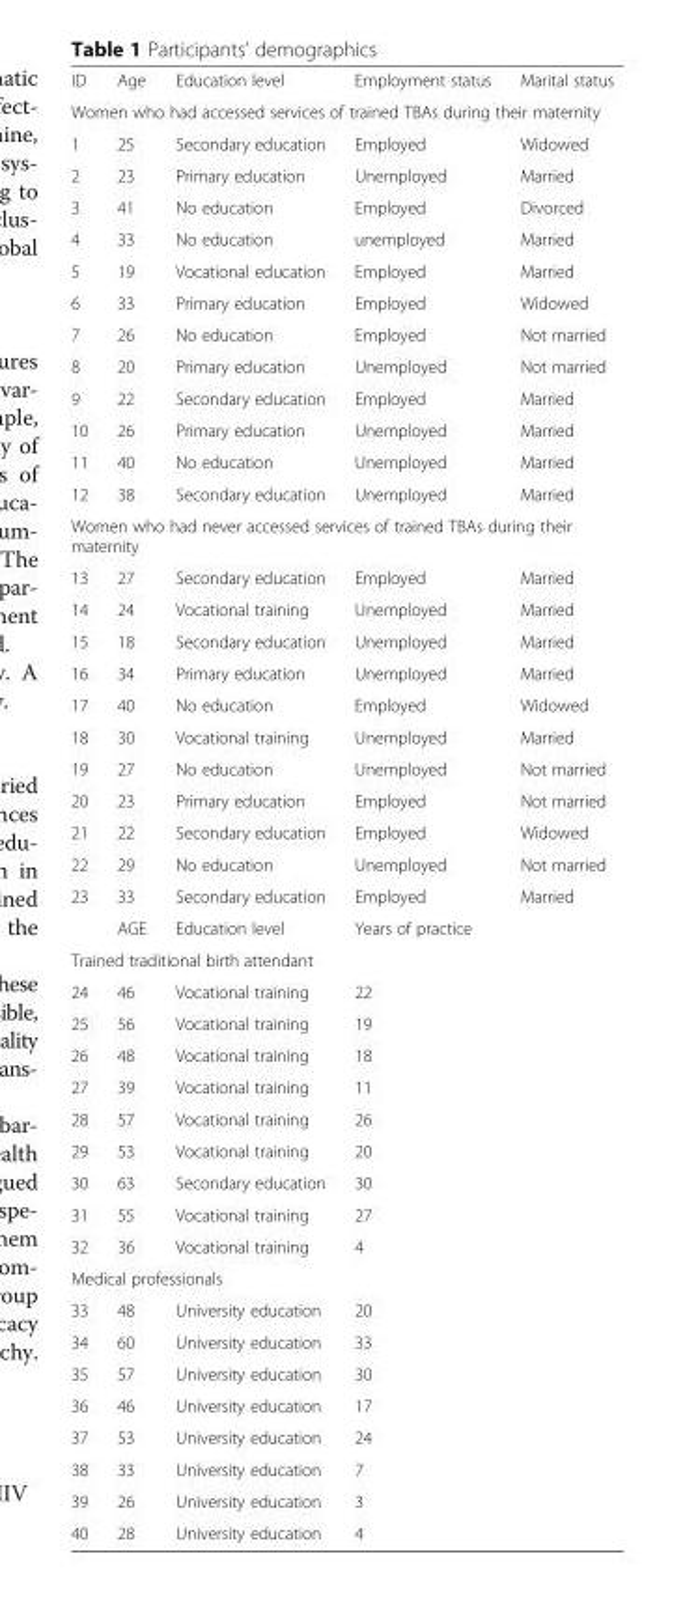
<table><tbody><tr><td>ID</td><td>Age</td><td>Education level</td><td>Employment status</td><td>Marital status</td></tr><tr><td colspan="5">Women who had accessed services of trained TBAs during their maternity</td></tr><tr><td>1</td><td>25</td><td>Secondary education</td><td>Employed</td><td>Widowed</td></tr><tr><td>2</td><td>23</td><td>Primary education</td><td>Unemployed</td><td>Married</td></tr><tr><td>3</td><td>41</td><td>No education</td><td>Employed</td><td>Divorced</td></tr><tr><td>4</td><td>33</td><td>No education</td><td>unemployed</td><td>Married</td></tr><tr><td>5</td><td>19</td><td>Vocational education</td><td>Employed</td><td>Married</td></tr><tr><td>6</td><td>33</td><td>Primary education</td><td>Employed</td><td>Widowed</td></tr><tr><td>7</td><td>26</td><td>No education</td><td>Employed</td><td>Not married</td></tr><tr><td>8</td><td>20</td><td>Primary education</td><td>Unemployed</td><td>Not married</td></tr><tr><td>9</td><td>22</td><td>Secondary education</td><td>Employed</td><td>Married</td></tr><tr><td>10</td><td>26</td><td>Primary education</td><td>Unemployed</td><td>Married</td></tr><tr><td>11</td><td>40</td><td>No education</td><td>Unemployed</td><td>Married</td></tr><tr><td>12</td><td>38</td><td>Secondary education</td><td>Unemployed</td><td>Married</td></tr><tr><td colspan="5">Women who had never accessed services of trained TBAs during their maternity</td></tr><tr><td>13</td><td>27</td><td>Secondary education</td><td>Employed</td><td>Married</td></tr><tr><td>14</td><td>24</td><td>Vocational training</td><td>Unemployed</td><td>Married</td></tr><tr><td>15</td><td>18</td><td>Secondary education</td><td>Unemployed</td><td>Married</td></tr><tr><td>16</td><td>34</td><td>Primary education</td><td>Unemployed</td><td>Married</td></tr><tr><td>17</td><td>40</td><td>No education</td><td>Employed</td><td>Widowed</td></tr><tr><td>18</td><td>30</td><td>Vocational training</td><td>Unemployed</td><td>Married</td></tr><tr><td>19</td><td>27</td><td>No education</td><td>Unemployed</td><td>Not married</td></tr><tr><td>20</td><td>23</td><td>Primary education</td><td>Employed</td><td>Not married</td></tr><tr><td>21</td><td>22</td><td>Secondary education</td><td>Employed</td><td>Widowed</td></tr><tr><td>22</td><td>29</td><td>No education</td><td>Unemployed</td><td>Not married</td></tr><tr><td rowspan="2">23</td><td>33</td><td>Secondary education</td><td>Employed</td><td>Married</td></tr><tr><td>AGE</td><td>Education level</td><td colspan="2">Years of practice</td></tr><tr><td colspan="5">Trained traditional birth attendant</td></tr><tr><td>24</td><td>46</td><td>Vocational training</td><td colspan="2">22</td></tr><tr><td>25</td><td>56</td><td>Vocational training</td><td colspan="2">19</td></tr><tr><td>26</td><td>48</td><td>Vocational training</td><td colspan="2">18</td></tr><tr><td>27</td><td>39</td><td>Vocational training</td><td colspan="2">11</td></tr><tr><td>28</td><td>57</td><td>Vocational training</td><td colspan="2">26</td></tr><tr><td>29</td><td>53</td><td>Vocational training</td><td colspan="2">20</td></tr><tr><td>30</td><td>63</td><td>Secondary education</td><td colspan="2">30</td></tr><tr><td>31</td><td>55</td><td>Vocational training</td><td colspan="2">27</td></tr><tr><td>32</td><td>36</td><td>Vocational training</td><td colspan="2">4</td></tr><tr><td colspan="5">Medical professionals</td></tr><tr><td>33</td><td>48</td><td>University education</td><td colspan="2">20</td></tr><tr><td>34</td><td>60</td><td>University education</td><td colspan="2">33</td></tr><tr><td>35</td><td>57</td><td>University education</td><td colspan="2">30</td></tr><tr><td>36</td><td>46</td><td>University education</td><td colspan="2">17</td></tr><tr><td>37</td><td>53</td><td>University education</td><td colspan="2">24</td></tr><tr><td>38</td><td>33</td><td>University education</td><td colspan="2">7</td></tr><tr><td>39</td><td>26</td><td>University education</td><td colspan="2">3</td></tr><tr><td>40</td><td>28</td><td>University education</td><td colspan="2">4</td></tr></tbody></table>